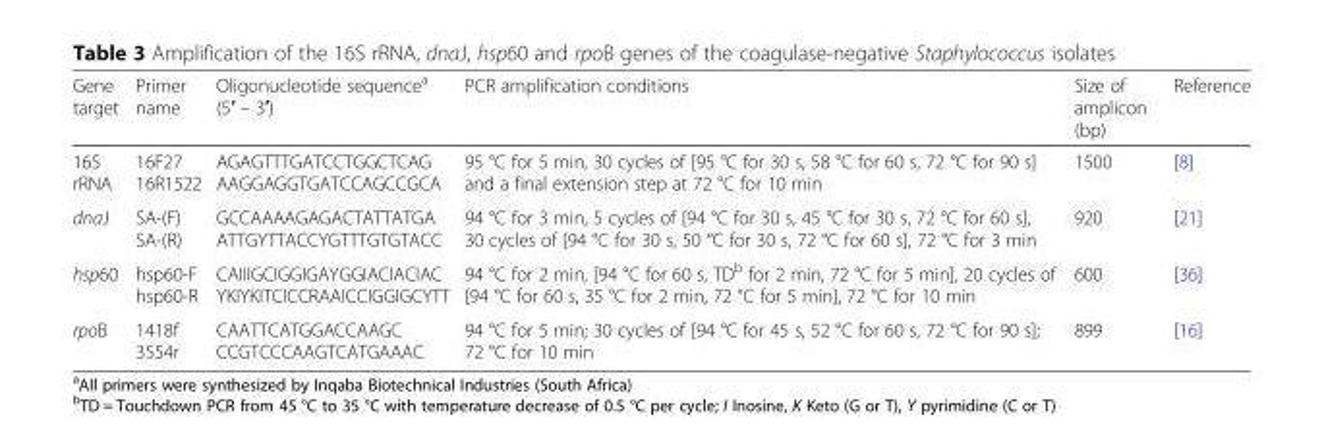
<table><thead><tr><td>Gene target</td><td>Primer name</td><td>Oligonucleotide sequence<sup>a</sup> (5′ – 3′)</td><td>PCR amplification conditions</td><td>Size of amplicon (bp)</td><td>Reference</td></tr></thead><tbody><tr><td>16S rRNA</td><td>16F27 16R1522</td><td>AGAGTTTGATCCTGGCTCAG AAGGAGGTGATCCAGCCGCA</td><td>95 °C for 5 min, 30 cycles of [95 °C for 30 s, 58 °C for 60 s, 72 °C for 90 s] and a final extension step at 72 °C for 10 min</td><td>1500</td><td>[8]</td></tr><tr><td>dnaJ</td><td>SA-(F) SA-(R)</td><td>GCCAAAAGAGACTATTATGA ATTGYTTACCYGTTTGTGTACC</td><td>94 °C for 3 min, 5 cycles of [94 °C for 30 s, 45 °C for 30 s, 72 °C for 60 s], 30 cycles of [94 °C for 30 s, 50 °C for 30 s, 72 °C for 60 s], 72 °C for 3 min</td><td>920</td><td>[21]</td></tr><tr><td>hsp60</td><td>hsp60-F hsp60-R</td><td>CAIIIGCIGGIGAYGGIACIACIAC YKIYKITCICCRAAICCIGGIGCYTT</td><td>94 °C for 2 min, [94 °C for 60 s, TD<sup>b</sup> for 2 min, 72 °C for 5 min], 20 cycles of [94 °C for 60 s, 35 °C for 2 min, 72 °C for 5 min], 72 °C for 10 min</td><td>600</td><td>[36]</td></tr><tr><td>rpoB</td><td>1418f 3554r</td><td>CAATTCATGGACCAAGC CCGTCCCAAGTCATGAAAC</td><td>94 °C for 5 min; 30 cycles of [94 °C for 45 s, 52 °C for 60 s, 72 °C for 90 s]; 72 °C for 10 min</td><td>899</td><td>[16]</td></tr></tbody></table>